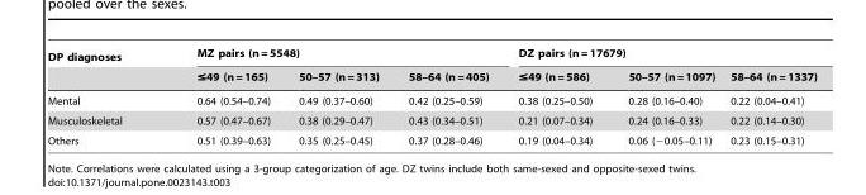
<table><thead><tr><td rowspan="2">DP diagnoses</td><td colspan="3">MZ pairs (n = 5548)</td><td colspan="3">DZ pairs (n = 17679)</td></tr><tr><td>≤49 (n = 165)</td><td>50–57 (n = 313)</td><td>58–64 (n = 405)</td><td>≤49 (n = 586)</td><td>50–57 (n = 1097)</td><td>58–64 (n = 1337)</td></tr></thead><tbody><tr><td>Mental</td><td>0.64 (0.54–0.74)</td><td>0.49 (0.37–0.60)</td><td>0.42 (0.25–0.59)</td><td>0.38 (0.25–0.50)</td><td>0.28 (0.16–0.40)</td><td>0.22 (0.04–0.41)</td></tr><tr><td>Musculoskeletal</td><td>0.57 (0.47–0.67)</td><td>0.38 (0.29–0.47)</td><td>0.43 (0.34–0.51)</td><td>0.21 (0.07–0.34)</td><td>0.24 (0.16–0.33)</td><td>0.22 (0.14–0.30)</td></tr><tr><td>Others</td><td>0.51 (0.39–0.63)</td><td>0.35 (0.25–0.45)</td><td>0.37 (0.28–0.46)</td><td>0.19 (0.04–0.34)</td><td>0.06 (−0.05–0.11)</td><td>0.23 (0.15–0.31)</td></tr></tbody></table>